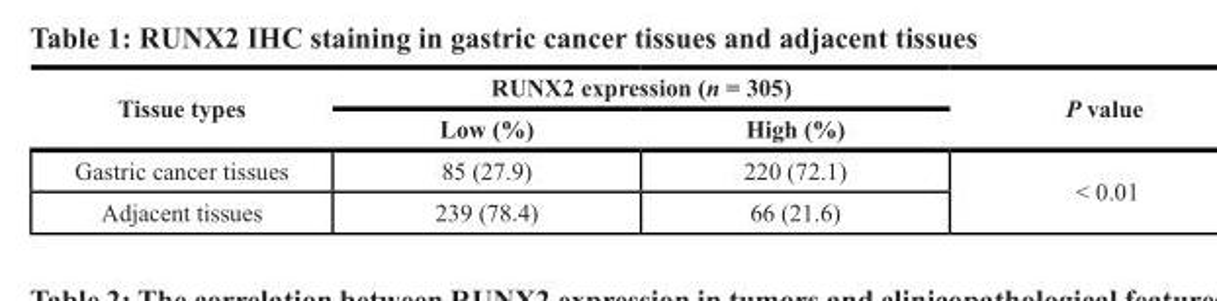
<table><thead><tr><td rowspan="2">Tissue types</td><td colspan="2">RUNX2 expression (n = 305)</td><td rowspan="2">P value</td></tr><tr><td>Low (%)</td><td>High (%)</td></tr></thead><tbody><tr><td>Gastric cancer tissues</td><td>85 (27.9)</td><td>220 (72.1)</td><td rowspan="2">&lt; 0.01</td></tr><tr><td>Adjacent tissues</td><td>239 (78.4)</td><td>66 (21.6)</td></tr></tbody></table>